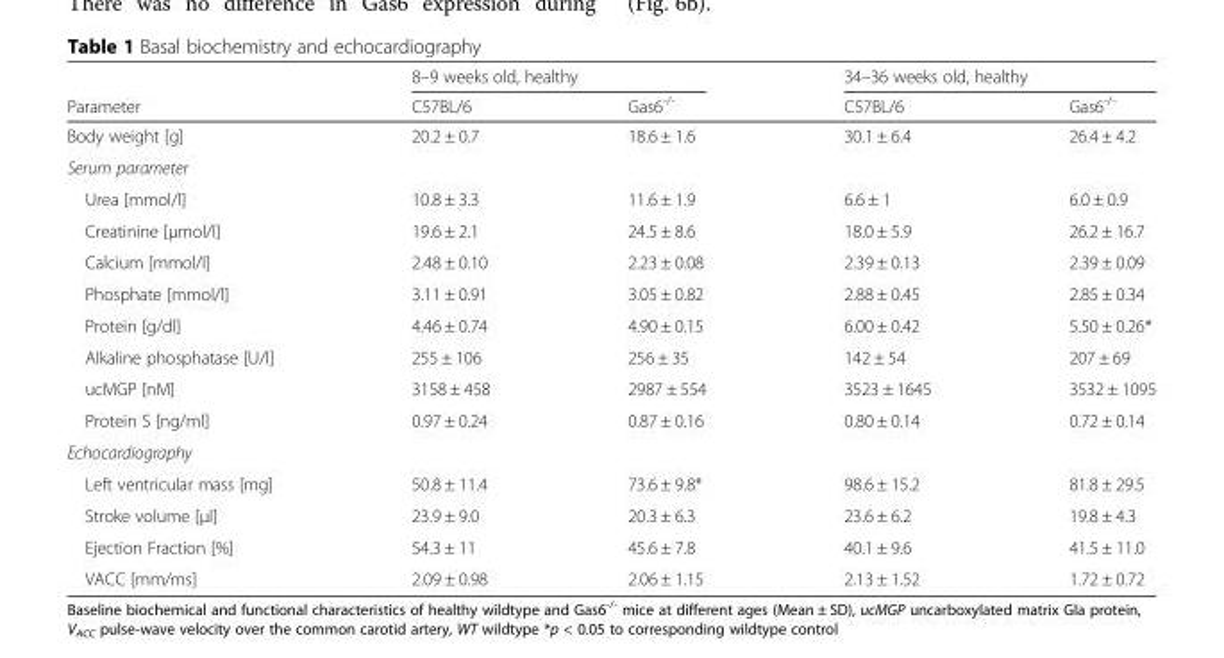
<table><thead><tr><td rowspan="2">Parameter</td><td colspan="2">8–9 weeks old, healthy</td><td colspan="2">34–36 weeks old, healthy</td></tr><tr><td>C57BL/6</td><td>Gas6<sup>-/-</sup></td><td>C57BL/6</td><td>Gas6<sup>-/-</sup></td></tr></thead><tbody><tr><td>Body weight [g]</td><td>20.2 ± 0.7</td><td>18.6 ± 1.6</td><td>30.1 ± 6.4</td><td>26.4 ± 4.2</td></tr><tr><td colspan="5">Serum parameter</td></tr><tr><td>Urea [mmol/l]</td><td>10.8 ± 3.3</td><td>11.6 ± 1.9</td><td>6.6 ± 1</td><td>6.0 ± 0.9</td></tr><tr><td>Creatinine [μmol/l]</td><td>19.6 ± 2.1</td><td>24.5 ± 8.6</td><td>18.0 ± 5.9</td><td>26.2 ± 16.7</td></tr><tr><td>Calcium [mmol/l]</td><td>2.48 ± 0.10</td><td>2.23 ± 0.08</td><td>2.39 ± 0.13</td><td>2.39 ± 0.09</td></tr><tr><td>Phosphate [mmol/l]</td><td>3.11 ± 0.91</td><td>3.05 ± 0.82</td><td>2.88 ± 0.45</td><td>2.85 ± 0.34</td></tr><tr><td>Protein [g/dl]</td><td>4.46 ± 0.74</td><td>4.90 ± 0.15</td><td>6.00 ± 0.42</td><td>5.50 ± 0.26*</td></tr><tr><td>Alkaline phosphatase [U/l]</td><td>255 ± 106</td><td>256 ± 35</td><td>142 ± 54</td><td>207 ± 69</td></tr><tr><td>ucMGP [nM]</td><td>3158 ± 458</td><td>2987 ± 554</td><td>3523 ± 1645</td><td>3532 ± 1095</td></tr><tr><td>Protein S [ng/ml]</td><td>0.97 ± 0.24</td><td>0.87 ± 0.16</td><td>0.80 ± 0.14</td><td>0.72 ± 0.14</td></tr><tr><td colspan="5">Echocardiography</td></tr><tr><td>Left ventricular mass [mg]</td><td>50.8 ± 11.4</td><td>73.6 ± 9.8*</td><td>98.6 ± 15.2</td><td>81.8 ± 29.5</td></tr><tr><td>Stroke volume [μl]</td><td>23.9 ± 9.0</td><td>20.3 ± 6.3</td><td>23.6 ± 6.2</td><td>19.8 ± 4.3</td></tr><tr><td>Ejection Fraction [%]</td><td>54.3 ± 11</td><td>45.6 ± 7.8</td><td>40.1 ± 9.6</td><td>41.5 ± 11.0</td></tr><tr><td>VACC [mm/ms]</td><td>2.09 ± 0.98</td><td>2.06 ± 1.15</td><td>2.13 ± 1.52</td><td>1.72 ± 0.72</td></tr></tbody></table>